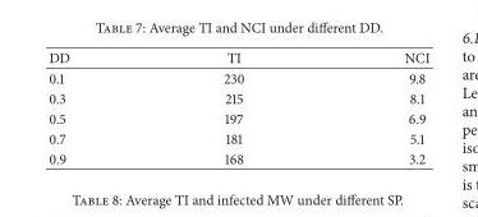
<table><thead><tr><td>DD</td><td>TI</td><td>NCI</td></tr></thead><tbody><tr><td>0.1</td><td>230</td><td>9.8</td></tr><tr><td>0.3</td><td>215</td><td>8.1</td></tr><tr><td>0.5</td><td>197</td><td>6.9</td></tr><tr><td>0.7</td><td>181</td><td>5.1</td></tr><tr><td>0.9</td><td>168</td><td>3.2</td></tr></tbody></table>